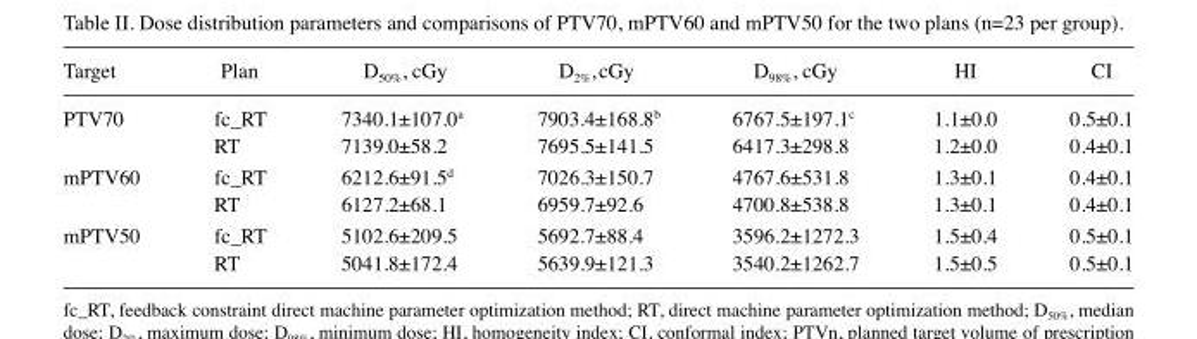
<table><thead><tr><td>Target</td><td>Plan</td><td>D<sub>50%</sub>, cGy</td><td>D<sub>2%</sub>, cGy</td><td>D<sub>98%</sub>, cGy</td><td>HI</td><td>CI</td></tr></thead><tbody><tr><td rowspan="2">PTV70</td><td>fc_RT</td><td>7340.1±107.0<sup>a</sup></td><td>7903.4±168.8<sup>b</sup></td><td>6767.5±197.1<sup>c</sup></td><td>1.1±0.0</td><td>0.5±0.1</td></tr><tr><td>RT</td><td>7139.0±58.2</td><td>7695.5±141.5</td><td>6417.3±298.8</td><td>1.2±0.0</td><td>0.4±0.1</td></tr><tr><td rowspan="2">mPTV60</td><td>fc_RT</td><td>6212.6±91.5<sup>d</sup></td><td>7026.3±150.7</td><td>4767.6±531.8</td><td>1.3±0.1</td><td>0.4±0.1</td></tr><tr><td>RT</td><td>6127.2±68.1</td><td>6959.7±92.6</td><td>4700.8±538.8</td><td>1.3±0.1</td><td>0.4±0.1</td></tr><tr><td rowspan="2">mPTV50</td><td>fc_RT</td><td>5102.6±209.5</td><td>5692.7±88.4</td><td>3596.2±1272.3</td><td>1.5±0.4</td><td>0.5±0.1</td></tr><tr><td>RT</td><td>5041.8±172.4</td><td>5639.9±121.3</td><td>3540.2±1262.7</td><td>1.5±0.5</td><td>0.5±0.1</td></tr></tbody></table>